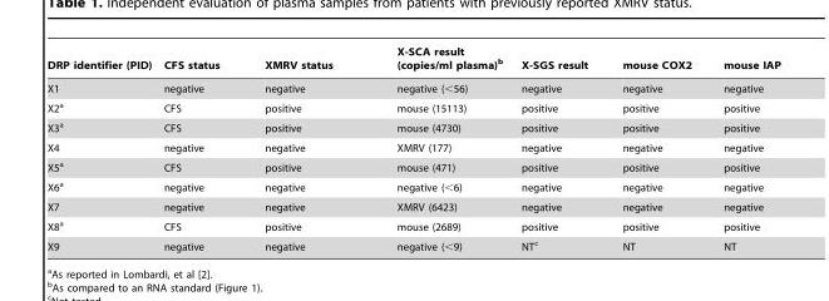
<table><thead><tr><td>DRP identifier (PID)</td><td>CFS status</td><td>XMRV status</td><td>X-SCA result (copies/ml plasma)<sup>b</sup></td><td>X-SGS result</td><td>mouse COX2</td><td>mouse IAP</td></tr></thead><tbody><tr><td>X1</td><td>negative</td><td>negative</td><td>negative (&lt;56)</td><td>negative</td><td>negative</td><td>negative</td></tr><tr><td>X2<sup>a</sup></td><td>CFS</td><td>positive</td><td>mouse (15113)</td><td>positive</td><td>positive</td><td>positive</td></tr><tr><td>X3<sup>a</sup></td><td>CFS</td><td>positive</td><td>mouse (4730)</td><td>positive</td><td>positive</td><td>positive</td></tr><tr><td>X4</td><td>negative</td><td>negative</td><td>XMRV (177)</td><td>negative</td><td>negative</td><td>negative</td></tr><tr><td>X5<sup>a</sup></td><td>CFS</td><td>positive</td><td>mouse (471)</td><td>positive</td><td>positive</td><td>positive</td></tr><tr><td>X6<sup>a</sup></td><td>negative</td><td>negative</td><td>negative (&lt;6)</td><td>negative</td><td>negative</td><td>negative</td></tr><tr><td>X7</td><td>negative</td><td>negative</td><td>XMRV (6423)</td><td>negative</td><td>negative</td><td>negative</td></tr><tr><td>X8<sup>a</sup></td><td>CFS</td><td>positive</td><td>mouse (2689)</td><td>positive</td><td>positive</td><td>positive</td></tr><tr><td>X9</td><td>negative</td><td>negative</td><td>negative (&lt;9)</td><td>NT<sup>c</sup></td><td>NT</td><td>NT</td></tr></tbody></table>